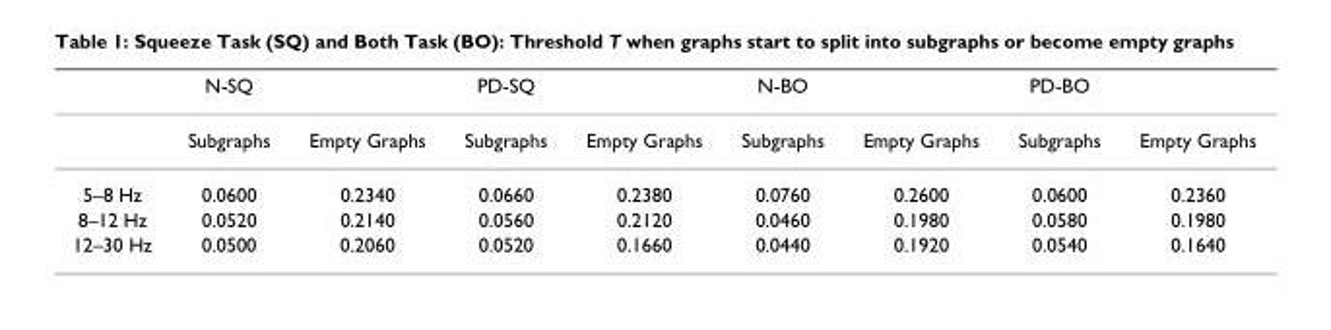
<table><thead><tr><td></td><td>N-SQ</td><td></td><td>PD-SQ</td><td></td><td>N-BO</td><td></td><td>PD-BO</td><td></td></tr></thead><tbody><tr><td></td><td>Subgraphs</td><td>Empty Graphs</td><td>Subgraphs</td><td>Empty Graphs</td><td>Subgraphs</td><td>Empty Graphs</td><td>Subgraphs</td><td>Empty Graphs</td></tr><tr><td>5–8 Hz</td><td>0.0600</td><td>0.2340</td><td>0.0660</td><td>0.2380</td><td>0.0760</td><td>0.2600</td><td>0.0600</td><td>0.2360</td></tr><tr><td>8–12 Hz</td><td>0.0520</td><td>0.2140</td><td>0.0560</td><td>0.2120</td><td>0.0460</td><td>0.1980</td><td>0.0580</td><td>0.1980</td></tr><tr><td>12–30 Hz</td><td>0.0500</td><td>0.2060</td><td>0.0520</td><td>0.1660</td><td>0.0440</td><td>0.1920</td><td>0.0540</td><td>0.1640</td></tr></tbody></table>